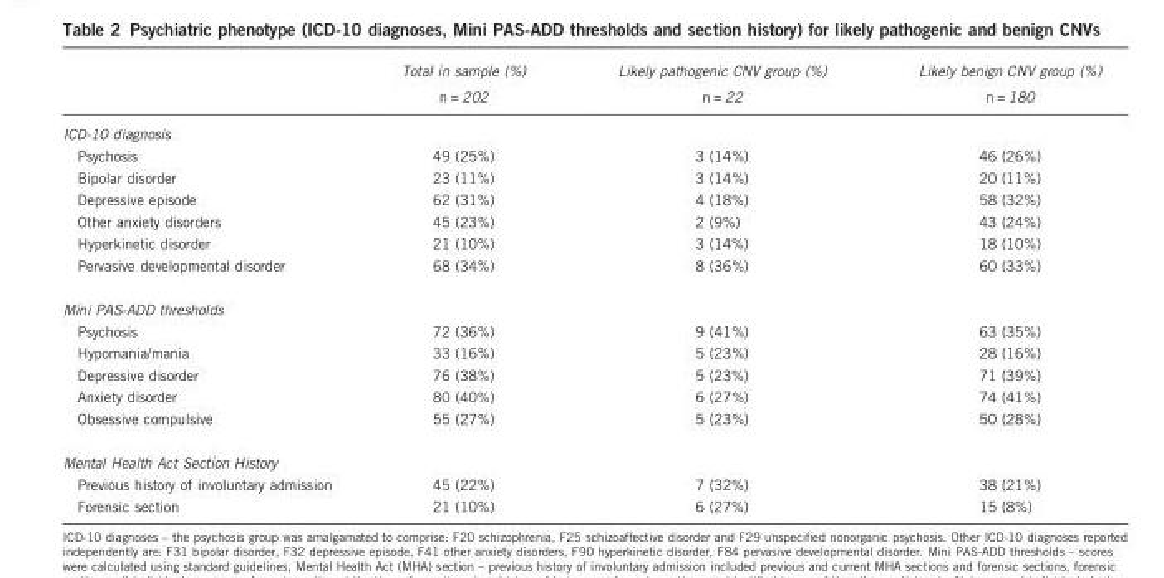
<table><thead><tr><td></td><td>Total in sample (%) n = 202</td><td>Likely pathogenic CNV group (%) n = 22</td><td>Likely benign CNV group (%) n = 180</td></tr></thead><tbody><tr><td colspan="4">ICD-10 diagnosis</td></tr><tr><td>Psychosis</td><td>49 (25%)</td><td>3 (14%)</td><td>46 (26%)</td></tr><tr><td>Bipolar disorder</td><td>23 (11%)</td><td>3 (14%)</td><td>20 (11%)</td></tr><tr><td>Depressive episode</td><td>62 (31%)</td><td>4 (18%)</td><td>58 (32%)</td></tr><tr><td>Other anxiety disorders</td><td>45 (23%)</td><td>2 (9%)</td><td>43 (24%)</td></tr><tr><td>Hyperkinetic disorder</td><td>21 (10%)</td><td>3 (14%)</td><td>18 (10%)</td></tr><tr><td>Pervasive developmental disorder</td><td>68 (34%)</td><td>8 (36%)</td><td>60 (33%)</td></tr><tr><td colspan="4">Mini PAS-ADD thresholds</td></tr><tr><td>Psychosis</td><td>72 (36%)</td><td>9 (41%)</td><td>63 (35%)</td></tr><tr><td>Hypomania/mania</td><td>33 (16%)</td><td>5 (23%)</td><td>28 (16%)</td></tr><tr><td>Depressive disorder</td><td>76 (38%)</td><td>5 (23%)</td><td>71 (39%)</td></tr><tr><td>Anxiety disorder</td><td>80 (40%)</td><td>6 (27%)</td><td>74 (41%)</td></tr><tr><td>Obsessive compulsive</td><td>55 (27%)</td><td>5 (23%)</td><td>50 (28%)</td></tr><tr><td colspan="4">Mental Health Act Section History</td></tr><tr><td>Previous history of involuntary admission</td><td>45 (22%)</td><td>7 (32%)</td><td>38 (21%)</td></tr><tr><td>Forensic section</td><td>21 (10%)</td><td>6 (27%)</td><td>15 (8%)</td></tr></tbody></table>